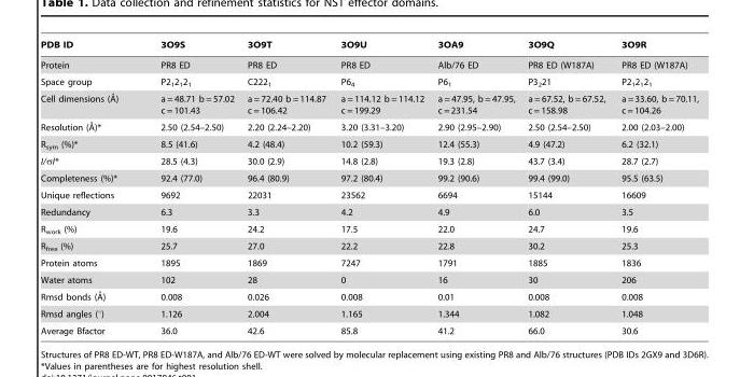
<table><thead><tr><td>PDB ID</td><td>3O9S</td><td>3O9T</td><td>3O9U</td><td>3OA9</td><td>3O9Q</td><td>3O9R</td></tr></thead><tbody><tr><td>Protein</td><td>PR8 ED</td><td>PR8 ED</td><td>PR8 ED</td><td>Alb/76 ED</td><td>PR8 ED (W187A)</td><td>PR8 ED (W187A)</td></tr><tr><td>Space group</td><td>P2<sub>1</sub>2<sub>1</sub>2<sub>1</sub></td><td>C222<sub>1</sub></td><td>P6<sub>4</sub></td><td>P6<sub>1</sub></td><td>P3<sub>2</sub>21</td><td>P2<sub>1</sub>2<sub>1</sub>2<sub>1</sub></td></tr><tr><td>Cell dimensions (A˚)</td><td>a = 48.71 b = 57.02 c = 101.43</td><td>a = 72.40 b = 114.87 c = 106.42</td><td>a = 114.12 b = 114.12 c = 199.29</td><td>a = 47.95, b = 47.95, c = 231.54</td><td>a = 67.52, b = 67.52, c = 158.98</td><td>a = 33.60, b = 70.11, c = 104.26</td></tr><tr><td>Resolution (A˚)*</td><td>2.50 (2.54–2.50)</td><td>2.20 (2.24–2.20)</td><td>3.20 (3.31–3.20)</td><td>2.90 (2.95–2.90)</td><td>2.50 (2.54–2.50)</td><td>2.00 (2.03–2.00)</td></tr><tr><td>R<sub>sym</sub> (%)*</td><td>8.5 (41.6)</td><td>4.2 (48.4)</td><td>10.2 (59.3)</td><td>12.4 (55.3)</td><td>4.9 (47.2)</td><td>6.2 (32.1)</td></tr><tr><td>I/σI*</td><td>28.5 (4.3)</td><td>30.0 (2.9)</td><td>14.8 (2.8)</td><td>19.3 (2.8)</td><td>43.7 (3.4)</td><td>28.7 (2.7)</td></tr><tr><td>Completeness (%)*</td><td>92.4 (77.0)</td><td>96.4 (80.9)</td><td>97.2 (80.4)</td><td>99.2 (90.6)</td><td>99.4 (99.0)</td><td>95.5 (63.5)</td></tr><tr><td>Unique reflections</td><td>9692</td><td>22031</td><td>23562</td><td>6694</td><td>15144</td><td>16609</td></tr><tr><td>Redundancy</td><td>6.3</td><td>3.3</td><td>4.2</td><td>4.9</td><td>6.0</td><td>3.5</td></tr><tr><td>R<sub>work</sub> (%)</td><td>19.6</td><td>24.2</td><td>17.5</td><td>22.0</td><td>24.7</td><td>19.6</td></tr><tr><td>R<sub>free</sub> (%)</td><td>25.7</td><td>27.0</td><td>22.2</td><td>22.8</td><td>30.2</td><td>25.3</td></tr><tr><td>Protein atoms</td><td>1895</td><td>1869</td><td>7247</td><td>1791</td><td>1885</td><td>1836</td></tr><tr><td>Water atoms</td><td>102</td><td>28</td><td>0</td><td>16</td><td>30</td><td>206</td></tr><tr><td>Rmsd bonds (A˚)</td><td>0.008</td><td>0.026</td><td>0.008</td><td>0.01</td><td>0.008</td><td>0.008</td></tr><tr><td>Rmsd angles (°)</td><td>1.126</td><td>2.004</td><td>1.165</td><td>1.344</td><td>1.082</td><td>1.048</td></tr><tr><td>Average Bfactor</td><td>36.0</td><td>42.6</td><td>85.8</td><td>41.2</td><td>66.0</td><td>30.6</td></tr></tbody></table>